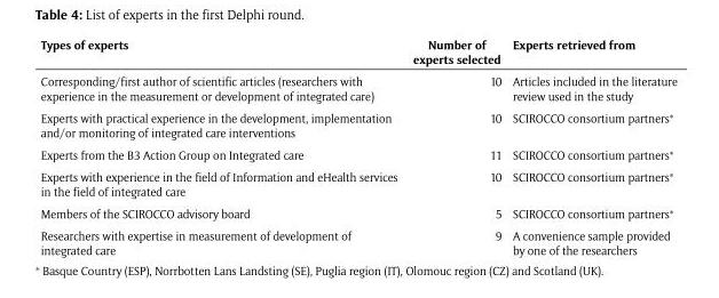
<table><thead><tr><td>Types of experts</td><td>Number of experts selected</td><td>Experts retrieved from</td></tr></thead><tbody><tr><td>Corresponding/first author of scientific articles (researchers with experience in the measurement or development of integrated care)</td><td>10</td><td>Articles included in the literature review used in the study</td></tr><tr><td>Experts with practical experience in the development, implementation and/or monitoring of integrated care interventions</td><td>10</td><td>SCIROCCO consortium partners*</td></tr><tr><td>Experts from the B3 Action Group on Integrated care</td><td>11</td><td>SCIROCCO consortium partners*</td></tr><tr><td>Experts with experience in the field of Information and eHealth services in the field of integrated care</td><td>10</td><td>SCIROCCO consortium partners*</td></tr><tr><td>Members of the SCIROCCO advisory board</td><td>5</td><td>SCIROCCO consortium partners*</td></tr><tr><td>Researchers with expertise in measurement of development of integrated care</td><td>9</td><td>A convenience sample provided by one of the researchers</td></tr></tbody></table>